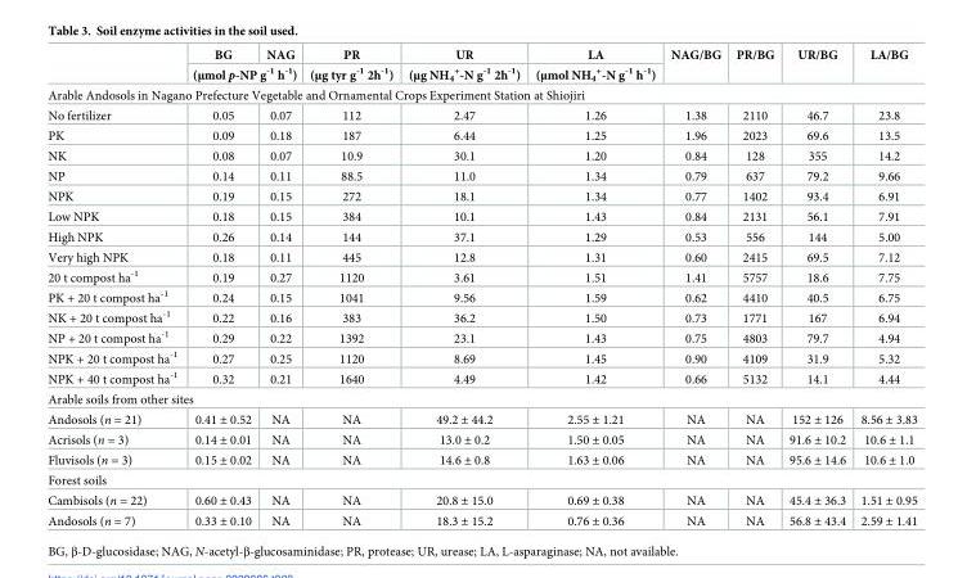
<table><thead><tr><td rowspan="2"></td><td>BG</td><td>NAG</td><td rowspan="2">PR (μg tyr g<sup>-1</sup> 2h<sup>-1</sup>)</td><td rowspan="2">UR (μg NH<sub>4</sub> <sup>+</sup>-N g<sup>-1</sup> 2h<sup>-1</sup>)</td><td rowspan="2">LA (μmol NH<sub>4</sub> <sup>+</sup>-N g<sup>-1</sup> h<sup>-1</sup>)</td><td rowspan="2">NAG/BG</td><td rowspan="2">PR/BG</td><td rowspan="2">UR/BG</td><td rowspan="2">LA/BG</td></tr><tr><td colspan="2">(μmol p-NP g<sup>-1</sup> h<sup>-1</sup>)</td></tr></thead><tbody><tr><td colspan="10">Arable Andosols in Nagano Prefecture Vegetable and Ornamental Crops Experiment Station at Shiojiri</td></tr><tr><td>No fertilizer</td><td>0.05</td><td>0.07</td><td>112</td><td>2.47</td><td>1.26</td><td>1.38</td><td>2110</td><td>46.7</td><td>23.8</td></tr><tr><td>PK</td><td>0.09</td><td>0.18</td><td>187</td><td>6.44</td><td>1.25</td><td>1.96</td><td>2023</td><td>69.6</td><td>13.5</td></tr><tr><td>NK</td><td>0.08</td><td>0.07</td><td>10.9</td><td>30.1</td><td>1.20</td><td>0.84</td><td>128</td><td>355</td><td>14.2</td></tr><tr><td>NP</td><td>0.14</td><td>0.11</td><td>88.5</td><td>11.0</td><td>1.34</td><td>0.79</td><td>637</td><td>79.2</td><td>9.66</td></tr><tr><td>NPK</td><td>0.19</td><td>0.15</td><td>272</td><td>18.1</td><td>1.34</td><td>0.77</td><td>1402</td><td>93.4</td><td>6.91</td></tr><tr><td>Low NPK</td><td>0.18</td><td>0.15</td><td>384</td><td>10.1</td><td>1.43</td><td>0.84</td><td>2131</td><td>56.1</td><td>7.91</td></tr><tr><td>High NPK</td><td>0.26</td><td>0.14</td><td>144</td><td>37.1</td><td>1.29</td><td>0.53</td><td>556</td><td>144</td><td>5.00</td></tr><tr><td>Very high NPK</td><td>0.18</td><td>0.11</td><td>445</td><td>12.8</td><td>1.31</td><td>0.60</td><td>2415</td><td>69.5</td><td>7.12</td></tr><tr><td>20 t compost ha<sup>-1</sup></td><td>0.19</td><td>0.27</td><td>1120</td><td>3.61</td><td>1.51</td><td>1.41</td><td>5757</td><td>18.6</td><td>7.75</td></tr><tr><td>PK + 20 t compost ha<sup>-1</sup></td><td>0.24</td><td>0.15</td><td>1041</td><td>9.56</td><td>1.59</td><td>0.62</td><td>4410</td><td>40.5</td><td>6.75</td></tr><tr><td>NK + 20 t compost ha<sup>-1</sup></td><td>0.22</td><td>0.16</td><td>383</td><td>36.2</td><td>1.50</td><td>0.73</td><td>1771</td><td>167</td><td>6.94</td></tr><tr><td>NP + 20 t compost ha<sup>-1</sup></td><td>0.29</td><td>0.22</td><td>1392</td><td>23.1</td><td>1.43</td><td>0.75</td><td>4803</td><td>79.7</td><td>4.94</td></tr><tr><td>NPK + 20 t compost ha<sup>-1</sup></td><td>0.27</td><td>0.25</td><td>1120</td><td>8.69</td><td>1.45</td><td>0.90</td><td>4109</td><td>31.9</td><td>5.32</td></tr><tr><td>NPK + 40 t compost ha<sup>-1</sup></td><td>0.32</td><td>0.21</td><td>1640</td><td>4.49</td><td>1.42</td><td>0.66</td><td>5132</td><td>14.1</td><td>4.44</td></tr><tr><td colspan="10">Arable soils from other sites</td></tr><tr><td>Andosols (n = 21)</td><td>0.41 ± 0.52</td><td>NA</td><td>NA</td><td>49.2 ± 44.2</td><td>2.55 ± 1.21</td><td>NA</td><td>NA</td><td>152 ± 126</td><td>8.56 ± 3.83</td></tr><tr><td>Acrisols (n = 3)</td><td>0.14 ± 0.01</td><td>NA</td><td>NA</td><td>13.0 ± 0.2</td><td>1.50 ± 0.05</td><td>NA</td><td>NA</td><td>91.6 ± 10.2</td><td>10.6 ± 1.1</td></tr><tr><td>Fluvisols (n = 3)</td><td>0.15 ± 0.02</td><td>NA</td><td>NA</td><td>14.6 ± 0.8</td><td>1.63 ± 0.06</td><td>NA</td><td>NA</td><td>95.6 ± 14.6</td><td>10.6 ± 1.0</td></tr><tr><td colspan="10">Forest soils</td></tr><tr><td>Cambisols (n = 22)</td><td>0.60 ± 0.43</td><td>NA</td><td>NA</td><td>20.8 ± 15.0</td><td>0.69 ± 0.38</td><td>NA</td><td>NA</td><td>45.4 ± 36.3</td><td>1.51 ± 0.95</td></tr><tr><td>Andosols (n = 7)</td><td>0.33 ± 0.10</td><td>NA</td><td>NA</td><td>18.3 ± 15.2</td><td>0.76 ± 0.36</td><td>NA</td><td>NA</td><td>56.8 ± 43.4</td><td>2.59 ± 1.41</td></tr></tbody></table>